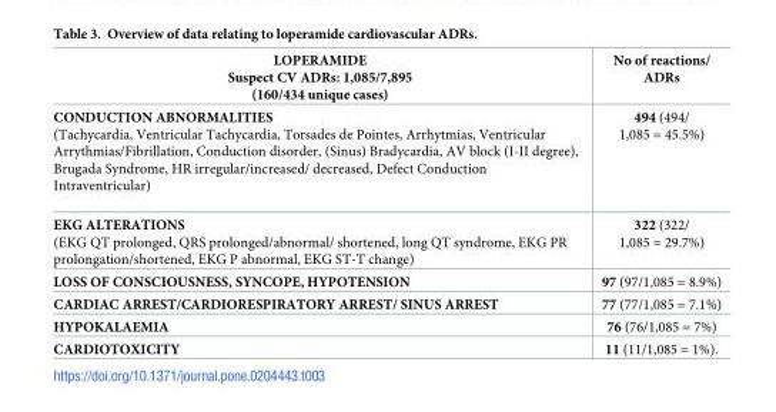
<table><thead><tr><td>LOPERAMIDE Suspect CV ADRs: 1,085/7,895 (160/434 unique cases)</td><td>No of reactions/ ADRs</td></tr></thead><tbody><tr><td>CONDUCTION ABNORMALITIES (Tachycardia, Ventricular Tachycardia, Torsades de Pointes, Arrhytmias, Ventricular Arrythmias/Fibrillation, Conduction disorder, (Sinus) Bradycardia, AV block (I-II degree), Brugada Syndrome, HR irregular/increased/ decreased, Defect Conduction Intraventricular)</td><td>494 (494/ 1,085 = 45.5%)</td></tr><tr><td>EKG ALTERATIONS (EKG QT prolonged, QRS prolonged/abnormal/ shortened, long QT syndrome, EKG PR prolongation/shortened, EKG P abnormal, EKG ST-T change)</td><td>322 (322/ 1,085 = 29.7%)</td></tr><tr><td>LOSS OF CONSCIOUSNESS, SYNCOPE, HYPOTENSION</td><td>97 (97/1,085 = 8.9%)</td></tr><tr><td>CARDIAC ARREST/CARDIORESPIRATORY ARREST/ SINUS ARREST</td><td>77 (77/1,085 = 7.1%)</td></tr><tr><td>HYPOKALAEMIA</td><td>76 (76/1,085 = 7%)</td></tr><tr><td>CARDIOTOXICITY</td><td>11 (11/1,085 = 1%).</td></tr></tbody></table>